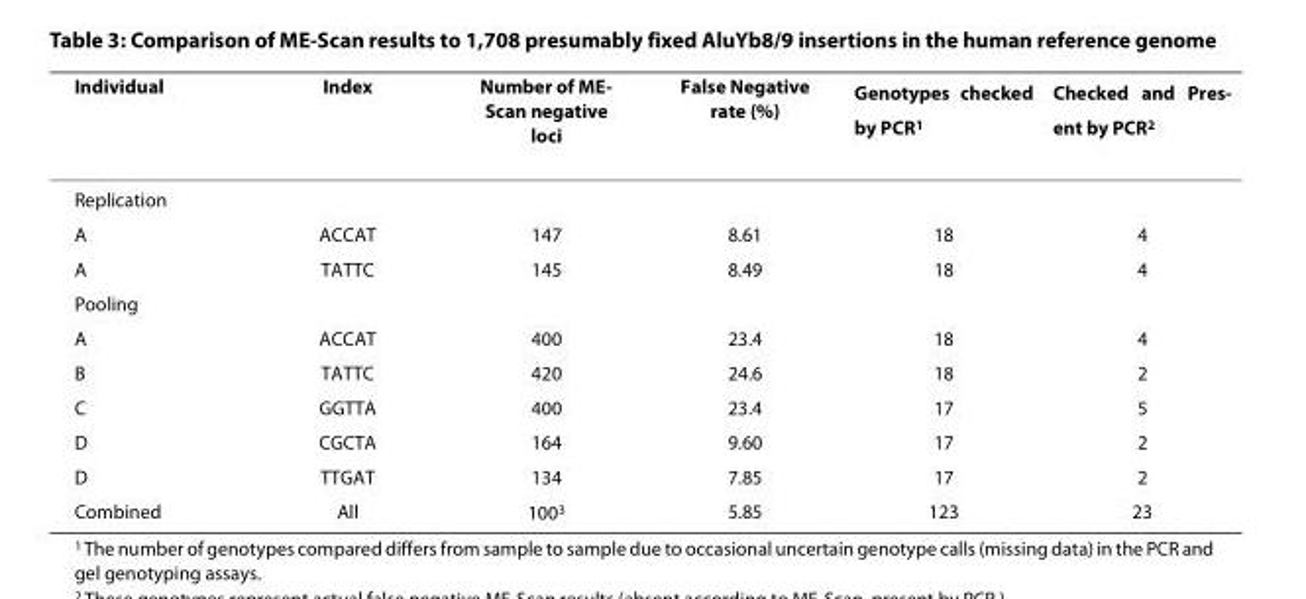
<table><thead><tr><td>Individual</td><td>Index</td><td>Number of ME- Scan negative loci</td><td>False Negative rate (%)</td><td>Genotypes checked by PCR<sup>1</sup></td><td>Checked and Pres- ent by PCR2</td></tr></thead><tbody><tr><td colspan="6">Replication</td></tr><tr><td>A</td><td>ACCAT</td><td>147</td><td>8.61</td><td>18</td><td>4</td></tr><tr><td>A</td><td>TATTC</td><td>145</td><td>8.49</td><td>18</td><td>4</td></tr><tr><td colspan="6">Pooling</td></tr><tr><td>A</td><td>ACCAT</td><td>400</td><td>23.4</td><td>18</td><td>4</td></tr><tr><td>B</td><td>TATTC</td><td>420</td><td>24.6</td><td>18</td><td>2</td></tr><tr><td>C</td><td>GGTTA</td><td>400</td><td>23.4</td><td>17</td><td>5</td></tr><tr><td>D</td><td>CGCTA</td><td>164</td><td>9.60</td><td>17</td><td>2</td></tr><tr><td>D</td><td>TTGAT</td><td>134</td><td>7.85</td><td>17</td><td>2</td></tr><tr><td>Combined</td><td>All</td><td>100<sup>3</sup></td><td>5.85</td><td>123</td><td>23</td></tr></tbody></table>